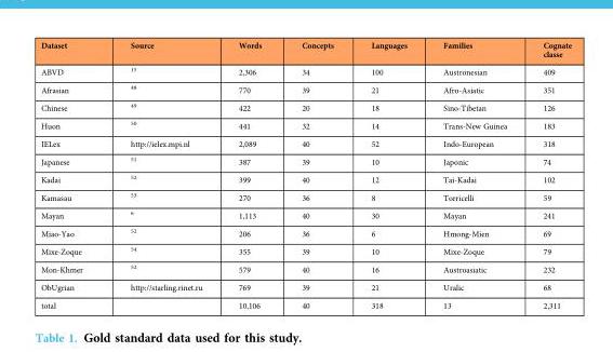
<table><thead><tr><td>Dataset</td><td>Source</td><td>Words</td><td>Concepts</td><td>Languages</td><td>Families</td><td>Cognate classe</td></tr></thead><tbody><tr><td>ABVD</td><td><sup>15</sup></td><td>2,306</td><td>34</td><td>100</td><td>Austronesian</td><td>409</td></tr><tr><td>Afrasian</td><td><sup>48</sup></td><td>770</td><td>39</td><td>21</td><td>Afro-Asiatic</td><td>351</td></tr><tr><td>Chinese</td><td><sup>49</sup></td><td>422</td><td>20</td><td>18</td><td>Sino-Tibetan</td><td>126</td></tr><tr><td>Huon</td><td><sup>50</sup></td><td>441</td><td>32</td><td>14</td><td>Trans-New Guinea</td><td>183</td></tr><tr><td>IELex</td><td>http://ielex.mpi.nl</td><td>2,089</td><td>40</td><td>52</td><td>Indo-European</td><td>318</td></tr><tr><td>Japanese</td><td><sup>51</sup></td><td>387</td><td>39</td><td>10</td><td>Japonic</td><td>74</td></tr><tr><td>Kadai</td><td><sup>52</sup></td><td>399</td><td>40</td><td>12</td><td>Tai-Kadai</td><td>102</td></tr><tr><td>Kamasau</td><td><sup>53</sup></td><td>270</td><td>36</td><td>8</td><td>Torricelli</td><td>59</td></tr><tr><td>Mayan</td><td><sup>6</sup></td><td>1,113</td><td>40</td><td>30</td><td>Mayan</td><td>241</td></tr><tr><td>Miao-Yao</td><td><sup>52</sup></td><td>206</td><td>36</td><td>6</td><td>Hmong-Mien</td><td>69</td></tr><tr><td>Mixe-Zoque</td><td><sup>54</sup></td><td>355</td><td>39</td><td>10</td><td>Mixe-Zoque</td><td>79</td></tr><tr><td>Mon-Khmer</td><td><sup>52</sup></td><td>579</td><td>40</td><td>16</td><td>Austroasiatic</td><td>232</td></tr><tr><td>ObUgrian</td><td>http://starling.rinet.ru</td><td>769</td><td>39</td><td>21</td><td>Uralic</td><td>68</td></tr><tr><td>total</td><td></td><td>10,106</td><td>40</td><td>318</td><td>13</td><td>2,311</td></tr></tbody></table>